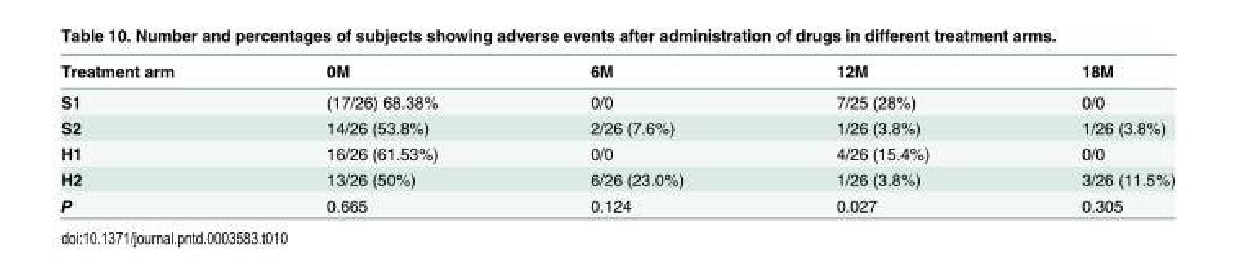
<table><thead><tr><td>Treatment arm</td><td>0M</td><td>6M</td><td>12M</td><td>18M</td></tr></thead><tbody><tr><td>S1</td><td>(17/26) 68.38%</td><td>0/0</td><td>7/25 (28%)</td><td>0/0</td></tr><tr><td>S2</td><td>14/26 (53.8%)</td><td>2/26 (7.6%)</td><td>1/26 (3.8%)</td><td>1/26 (3.8%)</td></tr><tr><td>H1</td><td>16/26 (61.53%)</td><td>0/0</td><td>4/26 (15.4%)</td><td>0/0</td></tr><tr><td>H2</td><td>13/26 (50%)</td><td>6/26 (23.0%)</td><td>1/26 (3.8%)</td><td>3/26 (11.5%)</td></tr><tr><td>P</td><td>0.665</td><td>0.124</td><td>0.027</td><td>0.305</td></tr></tbody></table>